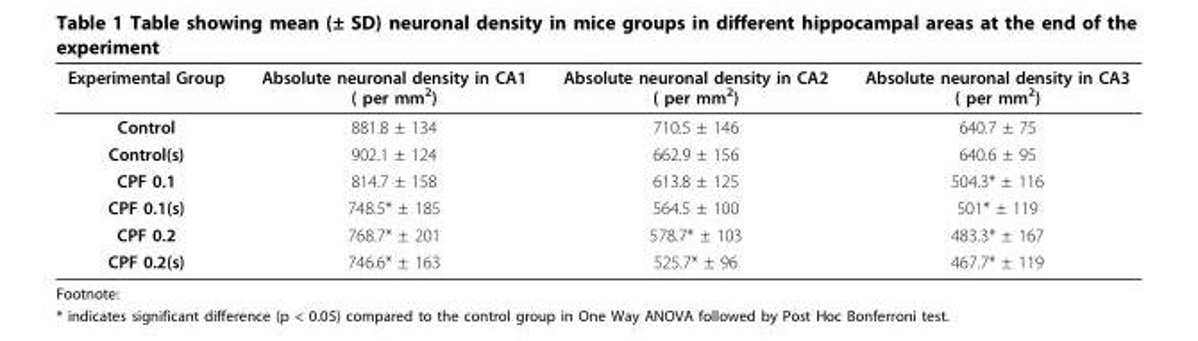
<table><thead><tr><td>Experimental Group</td><td>Absolute neuronal density in CA1 ( per mm<sup>2</sup>)</td><td>Absolute neuronal density in CA2 ( per mm<sup>2</sup>)</td><td>Absolute neuronal density in CA3 ( per mm<sup>2</sup>)</td></tr></thead><tbody><tr><td>Control</td><td>881.8 ± 134</td><td>710.5 ± 146</td><td>640.7 ± 75</td></tr><tr><td>Control(s)</td><td>902.1 ± 124</td><td>662.9 ± 156</td><td>640.6 ± 95</td></tr><tr><td>CPF 0.1</td><td>814.7 ± 158</td><td>613.8 ± 125</td><td>504.3* ± 116</td></tr><tr><td>CPF 0.1(s)</td><td>748.5* ± 185</td><td>564.5 ± 100</td><td>501* ± 119</td></tr><tr><td>CPF 0.2</td><td>768.7* ± 201</td><td>578.7* ± 103</td><td>483.3* ± 167</td></tr><tr><td>CPF 0.2(s)</td><td>746.6* ± 163</td><td>525.7* ± 96</td><td>467.7* ± 119</td></tr></tbody></table>